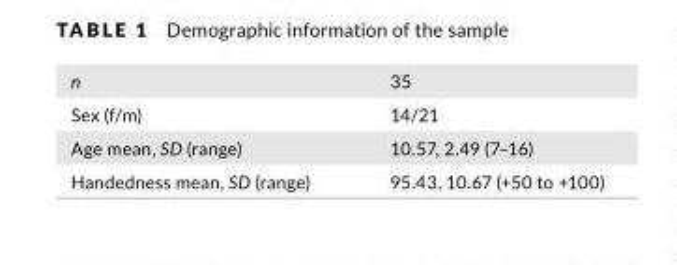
<table><tbody><tr><td>n</td><td>35</td></tr><tr><td>Sex (f/m)</td><td>14/21</td></tr><tr><td>Age mean, SD (range)</td><td>10.57, 2.49 (7–16)</td></tr><tr><td>Handedness mean, SD (range)</td><td>95.43, 10.67 (+50 to +100)</td></tr></tbody></table>